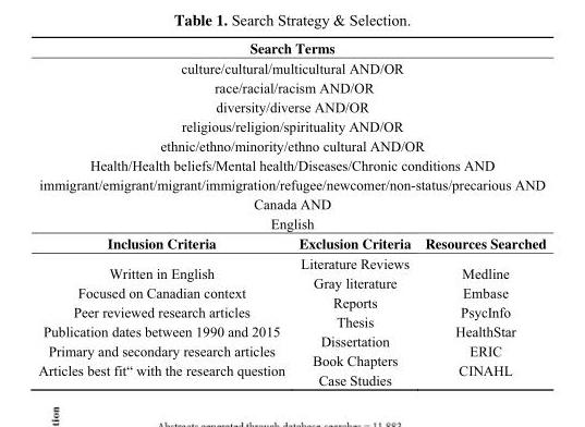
<table><thead><tr><td rowspan="2" colspan="3">Search Terms culture/cultural/multicultural AND/OR race/racial/racism AND/OR diversity/diverse AND/OR religious/religion/spirituality AND/OR ethnic/ethno/minority/ethno cultural AND/OR Health/Health beliefs/Mental health/Diseases/Chronic conditions AND immigrant/emigrant/migrant/immigration/refugee/newcomer/non-status/precarious AND Canada AND English</td></tr><tr></tr><tr><td>Inclusion Criteria</td><td>Exclusion Criteria</td><td>Resources Searched</td></tr></thead><tbody><tr><td>Written in English Focused on Canadian context Peer reviewed research articles Publication dates between 1990 and 2015 Primary and secondary research articles Articles best fit“ with the research question</td><td>Literature Reviews Gray literature Reports Thesis Dissertation Book Chapters Case Studies</td><td>Medline Embase PsycInfo HealthStar ERIC CINAHL</td></tr></tbody></table>